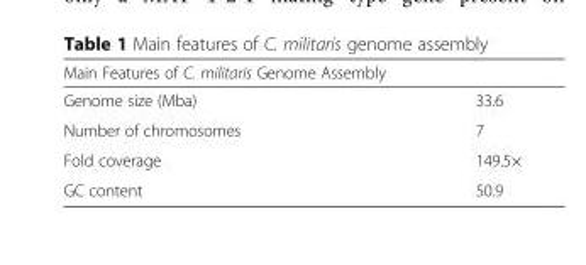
<table><thead><tr><td colspan="2">Main Features of C. militaris Genome Assembly</td></tr><tr><td>Genome size (Mba)</td><td>33.6</td></tr></thead><tbody><tr><td>Number of chromosomes</td><td>7</td></tr><tr><td>Fold coverage</td><td>149.5×</td></tr><tr><td>GC content</td><td>50.9</td></tr></tbody></table>